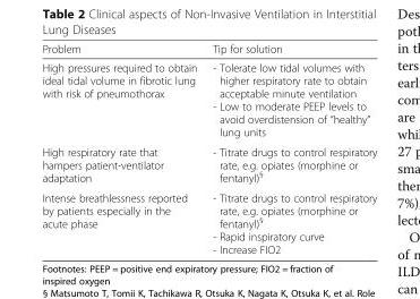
<table><thead><tr><td>Problem</td><td>Tip for solution</td></tr></thead><tbody><tr><td>High pressures required to obtain ideal tidal volume in fibrotic lung with risk of pneumothorax</td><td>- Tolerate low tidal volumes with higher respiratory rate to obtain acceptable minute ventilation - Low to moderate PEEP levels to avoid overdistension of “healthy” lung units</td></tr><tr><td>High respiratory rate that hampers patient-ventilator adaptation</td><td>- Titrate drugs to control respiratory rate, e.g. opiates (morphine or fentanyl)<sup>§</sup></td></tr><tr><td>Intense breathlessness reported by patients especially in the acute phase</td><td>- Titrate drugs to control respiratory rate, e.g. opiates (morphine or fentanyl)<sup>§</sup> - Rapid inspiratory curve - Increase FIO2</td></tr></tbody></table>